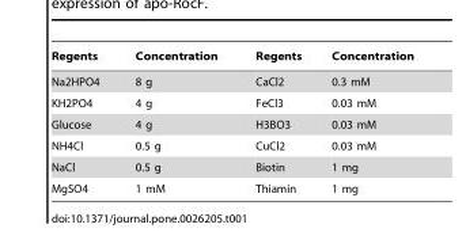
<table><thead><tr><td>Regents</td><td>Concentration</td><td>Regents</td><td>Concentration</td></tr></thead><tbody><tr><td>Na2HPO4</td><td>8 g</td><td>CaCl2</td><td>0.3 mM</td></tr><tr><td>KH2PO4</td><td>4 g</td><td>FeCl3</td><td>0.03 mM</td></tr><tr><td>Glucose</td><td>4 g</td><td>H3BO3</td><td>0.03 mM</td></tr><tr><td>NH4Cl</td><td>0.5 g</td><td>CuCl2</td><td>0.03 mM</td></tr><tr><td>NaCl</td><td>0.5 g</td><td>Biotin</td><td>1 mg</td></tr><tr><td>MgSO4</td><td>1 mM</td><td>Thiamin</td><td>1 mg</td></tr></tbody></table>